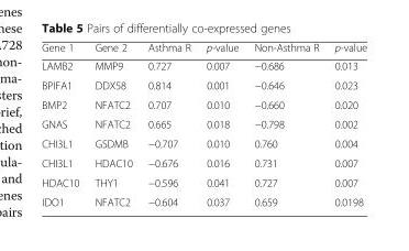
<table><thead><tr><td>Gene 1</td><td>Gene 2</td><td>Asthma R</td><td>p-value</td><td>Non-Asthma R</td><td>p-value</td></tr></thead><tbody><tr><td>LAMB2</td><td>MMP9</td><td>0.727</td><td>0.007</td><td>−0.686</td><td>0.013</td></tr><tr><td>BPIFA1</td><td>DDX58</td><td>0.814</td><td>0.001</td><td>−0.646</td><td>0.023</td></tr><tr><td>BMP2</td><td>NFATC2</td><td>0.707</td><td>0.010</td><td>−0.660</td><td>0.020</td></tr><tr><td>GNAS</td><td>NFATC2</td><td>0.665</td><td>0.018</td><td>−0.798</td><td>0.002</td></tr><tr><td>CHI3L1</td><td>GSDMB</td><td>−0.707</td><td>0.010</td><td>0.760</td><td>0.004</td></tr><tr><td>CHI3L1</td><td>HDAC10</td><td>−0.676</td><td>0.016</td><td>0.731</td><td>0.007</td></tr><tr><td>HDAC10</td><td>THY1</td><td>−0.596</td><td>0.041</td><td>0.727</td><td>0.007</td></tr><tr><td>IDO1</td><td>NFATC2</td><td>−0.604</td><td>0.037</td><td>0.659</td><td>0.0198</td></tr></tbody></table>